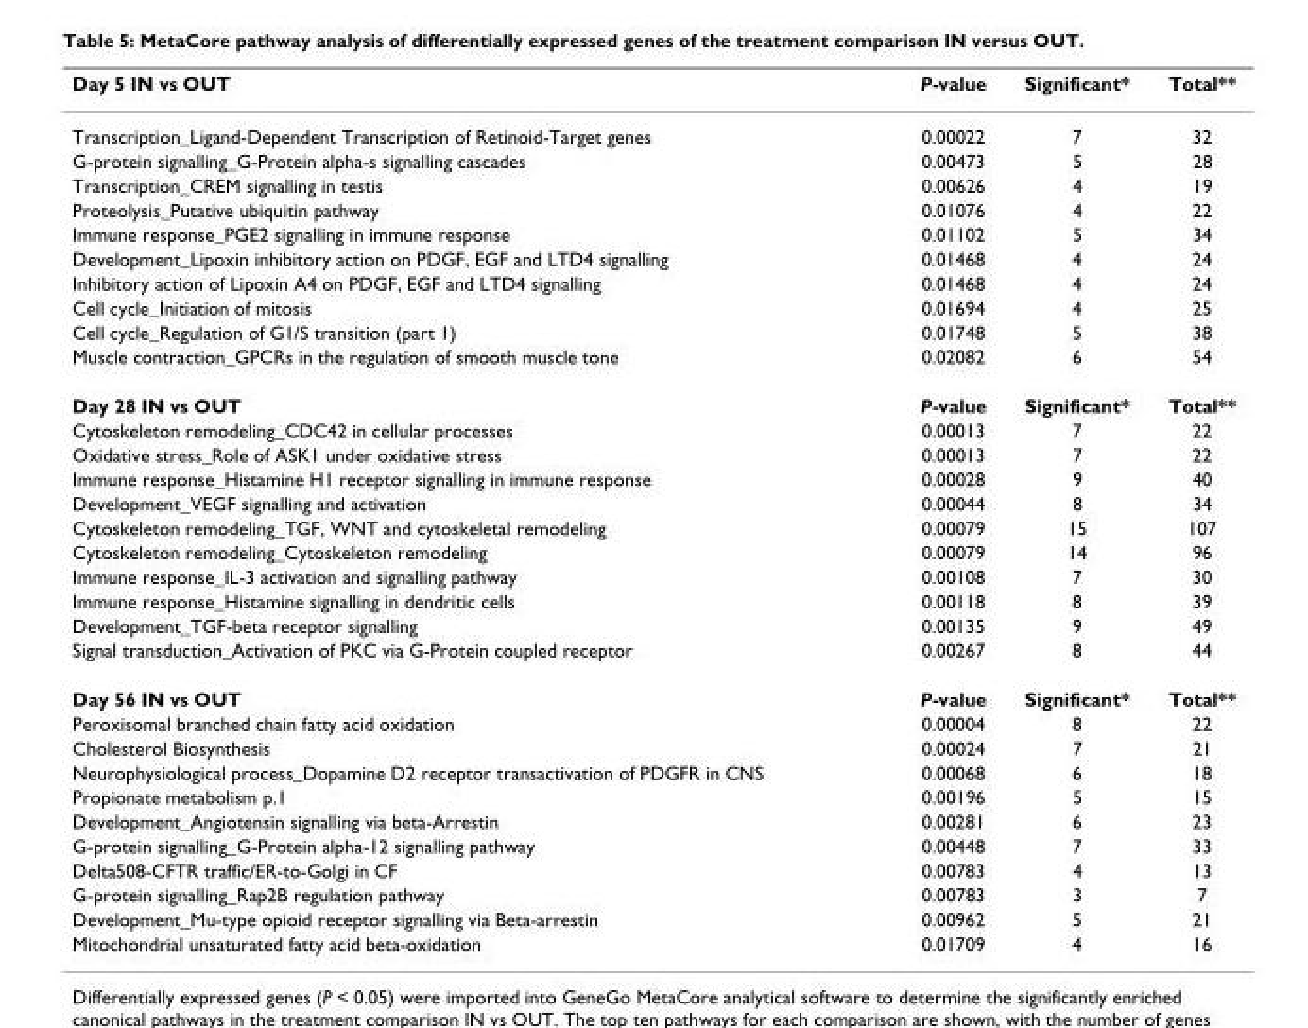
<table><thead><tr><td>Day 5 IN vs OUT</td><td>P-value</td><td>Significant*</td><td>Total**</td></tr></thead><tbody><tr><td>Transcription_Ligand-Dependent Transcription of Retinoid-Target genes</td><td>0.00022</td><td>7</td><td>32</td></tr><tr><td>G-protein signalling_G-Protein alpha-s signalling cascades</td><td>0.00473</td><td>5</td><td>28</td></tr><tr><td>Transcription_CREM signalling in testis</td><td>0.00626</td><td>4</td><td>19</td></tr><tr><td>Proteolysis_Putative ubiquitin pathway</td><td>0.01076</td><td>4</td><td>22</td></tr><tr><td>Immune response_PGE2 signalling in immune response</td><td>0.01102</td><td>5</td><td>34</td></tr><tr><td>Development_Lipoxin inhibitory action on PDGF, EGF and LTD4 signalling</td><td>0.01468</td><td>4</td><td>24</td></tr><tr><td>Inhibitory action of Lipoxin A4 on PDGF, EGF and LTD4 signalling</td><td>0.01468</td><td>4</td><td>24</td></tr><tr><td>Cell cycle_Initiation of mitosis</td><td>0.01694</td><td>4</td><td>25</td></tr><tr><td>Cell cycle_Regulation of G1/S transition (part 1)</td><td>0.01748</td><td>5</td><td>38</td></tr><tr><td>Muscle contraction_GPCRs in the regulation of smooth muscle tone</td><td>0.02082</td><td>6</td><td>54</td></tr><tr><td>Day 28 IN vs OUT</td><td>P-value</td><td>Significant*</td><td>Total**</td></tr><tr><td>Cytoskeleton remodeling_CDC42 in cellular processes</td><td>0.00013</td><td>7</td><td>22</td></tr><tr><td>Oxidative stress_Role of ASK1 under oxidative stress</td><td>0.00013</td><td>7</td><td>22</td></tr><tr><td>Immune response_Histamine H1 receptor signalling in immune response</td><td>0.00028</td><td>9</td><td>40</td></tr><tr><td>Development_VEGF signalling and activation</td><td>0.00044</td><td>8</td><td>34</td></tr><tr><td>Cytoskeleton remodeling_TGF, WNT and cytoskeletal remodeling</td><td>0.00079</td><td>15</td><td>107</td></tr><tr><td>Cytoskeleton remodeling_Cytoskeleton remodeling</td><td>0.00079</td><td>14</td><td>96</td></tr><tr><td>Immune response_IL-3 activation and signalling pathway</td><td>0.00108</td><td>7</td><td>30</td></tr><tr><td>Immune response_Histamine signalling in dendritic cells</td><td>0.00118</td><td>8</td><td>39</td></tr><tr><td>Development_TGF-beta receptor signalling</td><td>0.00135</td><td>9</td><td>49</td></tr><tr><td>Signal transduction_Activation of PKC via G-Protein coupled receptor</td><td>0.00267</td><td>8</td><td>44</td></tr><tr><td>Day 56 IN vs OUT</td><td>P-value</td><td>Significant*</td><td>Total**</td></tr><tr><td>Peroxisomal branched chain fatty acid oxidation</td><td>0.00004</td><td>8</td><td>22</td></tr><tr><td>Cholesterol Biosynthesis</td><td>0.00024</td><td>7</td><td>21</td></tr><tr><td>Neurophysiological process_Dopamine D2 receptor transactivation of PDGFR in CNS</td><td>0.00068</td><td>6</td><td>18</td></tr><tr><td>Propionate metabolism p.1</td><td>0.00196</td><td>5</td><td>15</td></tr><tr><td>Development_Angiotensin signalling via beta-Arrestin</td><td>0.00281</td><td>6</td><td>23</td></tr><tr><td>G-protein signalling_G-Protein alpha-12 signalling pathway</td><td>0.00448</td><td>7</td><td>33</td></tr><tr><td>Delta508-CFTR traffic/ER-to-Golgi in CF</td><td>0.00783</td><td>4</td><td>13</td></tr><tr><td>G-protein signalling_Rap2B regulation pathway</td><td>0.00783</td><td>3</td><td>7</td></tr><tr><td>Development_Mu-type opioid receptor signalling via Beta-arrestin</td><td>0.00962</td><td>5</td><td>21</td></tr><tr><td>Mitochondrial unsaturated fatty acid beta-oxidation</td><td>0.01709</td><td>4</td><td>16</td></tr></tbody></table>